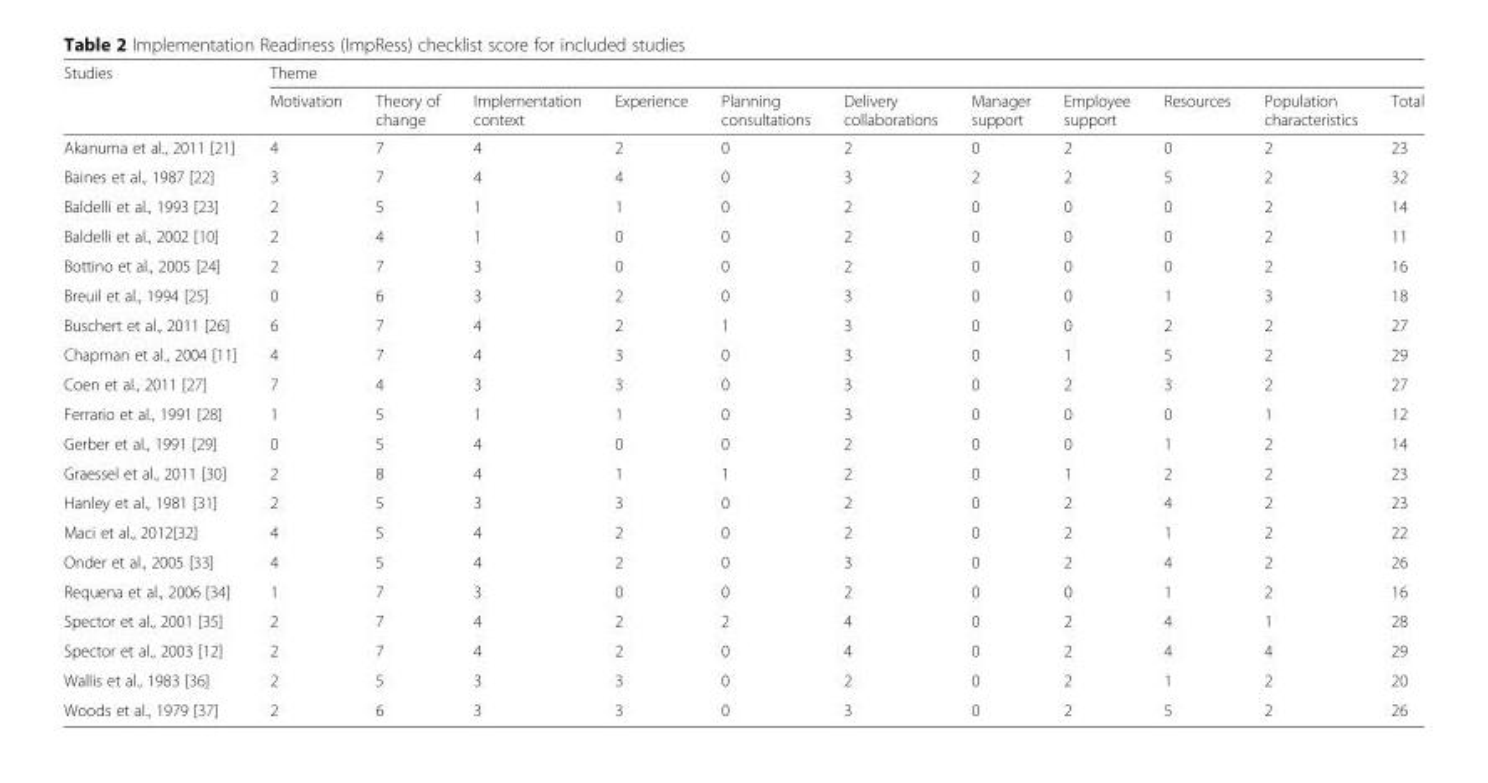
<table><thead><tr><td rowspan="2">Studies</td><td colspan="11">Theme</td></tr><tr><td>Motivation</td><td>Theory of change</td><td>Implementation context</td><td>Experience</td><td>Planning consultations</td><td>Delivery collaborations</td><td>Manager support</td><td>Employee support</td><td>Resources</td><td>Population characteristics</td><td>Total</td></tr></thead><tbody><tr><td>Akanuma et al., 2011 [21]</td><td>4</td><td>7</td><td>4</td><td>2</td><td>0</td><td>2</td><td>0</td><td>2</td><td>0</td><td>2</td><td>23</td></tr><tr><td>Baines et al., 1987 [22]</td><td>3</td><td>7</td><td>4</td><td>4</td><td>0</td><td>3</td><td>2</td><td>2</td><td>5</td><td>2</td><td>32</td></tr><tr><td>Baldelli et al., 1993 [23]</td><td>2</td><td>5</td><td>1</td><td>1</td><td>0</td><td>2</td><td>0</td><td>0</td><td>0</td><td>2</td><td>14</td></tr><tr><td>Baldelli et al., 2002 [10]</td><td>2</td><td>4</td><td>1</td><td>0</td><td>0</td><td>2</td><td>0</td><td>0</td><td>0</td><td>2</td><td>11</td></tr><tr><td>Bottino et al., 2005 [24]</td><td>2</td><td>7</td><td>3</td><td>0</td><td>0</td><td>2</td><td>0</td><td>0</td><td>0</td><td>2</td><td>16</td></tr><tr><td>Breuil et al., 1994 [25]</td><td>0</td><td>6</td><td>3</td><td>2</td><td>0</td><td>3</td><td>0</td><td>0</td><td>1</td><td>3</td><td>18</td></tr><tr><td>Buschert et al., 2011 [26]</td><td>6</td><td>7</td><td>4</td><td>2</td><td>1</td><td>3</td><td>0</td><td>0</td><td>2</td><td>2</td><td>27</td></tr><tr><td>Chapman et al., 2004 [11]</td><td>4</td><td>7</td><td>4</td><td>3</td><td>0</td><td>3</td><td>0</td><td>1</td><td>5</td><td>2</td><td>29</td></tr><tr><td>Coen et al., 2011 [27]</td><td>7</td><td>4</td><td>3</td><td>3</td><td>0</td><td>3</td><td>0</td><td>2</td><td>3</td><td>2</td><td>27</td></tr><tr><td>Ferrario et al., 1991 [28]</td><td>1</td><td>5</td><td>1</td><td>1</td><td>0</td><td>3</td><td>0</td><td>0</td><td>0</td><td>1</td><td>12</td></tr><tr><td>Gerber et al., 1991 [29]</td><td>0</td><td>5</td><td>4</td><td>0</td><td>0</td><td>2</td><td>0</td><td>0</td><td>1</td><td>2</td><td>14</td></tr><tr><td>Graessel et al., 2011 [30]</td><td>2</td><td>8</td><td>4</td><td>1</td><td>1</td><td>2</td><td>0</td><td>1</td><td>2</td><td>2</td><td>23</td></tr><tr><td>Hanley et al., 1981 [31]</td><td>2</td><td>5</td><td>3</td><td>3</td><td>0</td><td>2</td><td>0</td><td>2</td><td>4</td><td>2</td><td>23</td></tr><tr><td>Maci et al., 2012[32]</td><td>4</td><td>5</td><td>4</td><td>2</td><td>0</td><td>2</td><td>0</td><td>2</td><td>1</td><td>2</td><td>22</td></tr><tr><td>Onder et al., 2005 [33]</td><td>4</td><td>5</td><td>4</td><td>2</td><td>0</td><td>3</td><td>0</td><td>2</td><td>4</td><td>2</td><td>26</td></tr><tr><td>Requena et al., 2006 [34]</td><td>1</td><td>7</td><td>3</td><td>0</td><td>0</td><td>2</td><td>0</td><td>0</td><td>1</td><td>2</td><td>16</td></tr><tr><td>Spector et al., 2001 [35]</td><td>2</td><td>7</td><td>4</td><td>2</td><td>2</td><td>4</td><td>0</td><td>2</td><td>4</td><td>1</td><td>28</td></tr><tr><td>Spector et al., 2003 [12]</td><td>2</td><td>7</td><td>4</td><td>2</td><td>0</td><td>4</td><td>0</td><td>2</td><td>4</td><td>4</td><td>29</td></tr><tr><td>Wallis et al., 1983 [36]</td><td>2</td><td>5</td><td>3</td><td>3</td><td>0</td><td>2</td><td>0</td><td>2</td><td>1</td><td>2</td><td>20</td></tr><tr><td>Woods et al., 1979 [37]</td><td>2</td><td>6</td><td>3</td><td>3</td><td>0</td><td>3</td><td>0</td><td>2</td><td>5</td><td>2</td><td>26</td></tr></tbody></table>